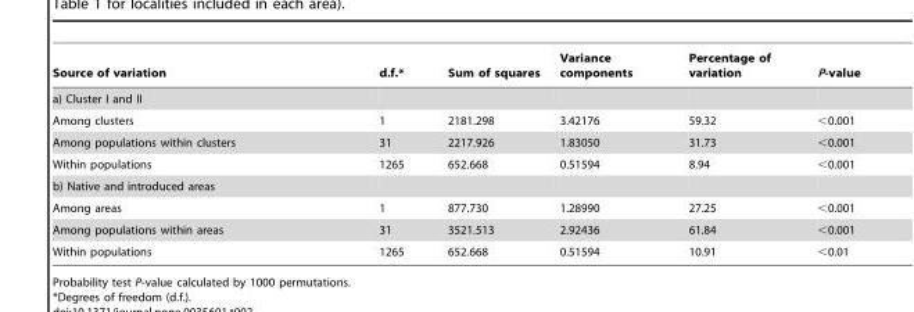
<table><thead><tr><td>Source of variation</td><td>d.f.*</td><td>Sum of squares</td><td>Variance components</td><td>Percentage of variation</td><td>P-value</td></tr></thead><tbody><tr><td colspan="6">a) Cluster I and II</td></tr><tr><td>Among clusters</td><td>1</td><td>2181.298</td><td>3.42176</td><td>59.32</td><td>&lt;0.001</td></tr><tr><td>Among populations within clusters</td><td>31</td><td>2217.926</td><td>1.83050</td><td>31.73</td><td>&lt;0.001</td></tr><tr><td>Within populations</td><td>1265</td><td>652.668</td><td>0.51594</td><td>8.94</td><td>&lt;0.001</td></tr><tr><td colspan="6">b) Native and introduced areas</td></tr><tr><td>Among areas</td><td>1</td><td>877.730</td><td>1.28990</td><td>27.25</td><td>&lt;0.001</td></tr><tr><td>Among populations within areas</td><td>31</td><td>3521.513</td><td>2.92436</td><td>61.84</td><td>&lt;0.001</td></tr><tr><td>Within populations</td><td>1265</td><td>652.668</td><td>0.51594</td><td>10.91</td><td>&lt;0.01</td></tr></tbody></table>